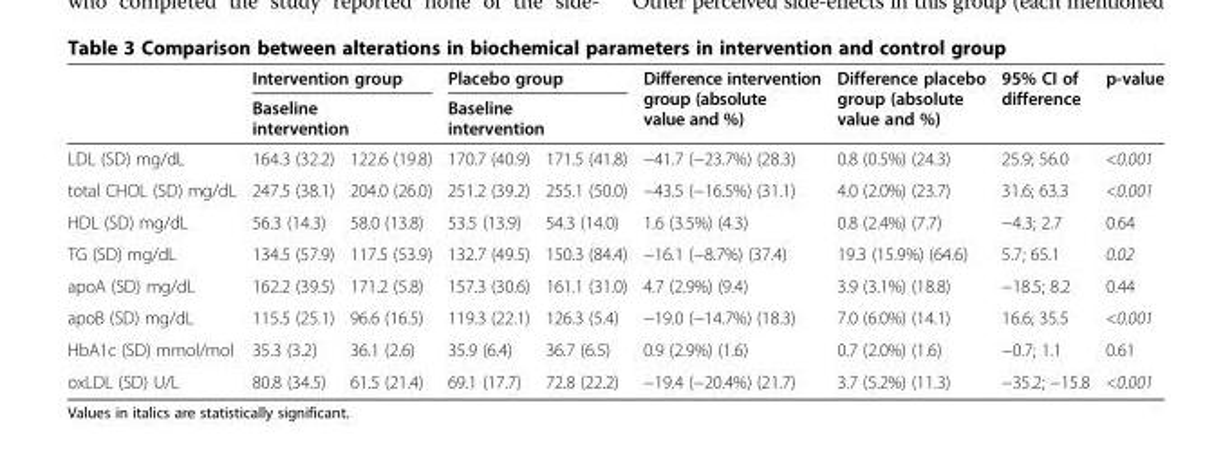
<table><thead><tr><td rowspan="3">LDL (SD) mg/dL</td><td rowspan="2" colspan="2">Intervention group Baseline intervention</td><td rowspan="2" colspan="2">Placebo group Baseline intervention</td><td rowspan="3">Difference intervention group (absolute value and %) −41.7 (−23.7%) (28.3)</td><td rowspan="3">Difference placebo group (absolute value and %) 0.8 (0.5%) (24.3)</td><td rowspan="3">95% CI of difference 25.9; 56.0</td><td rowspan="3">p-value &lt;0.001</td></tr><tr></tr><tr><td>164.3 (32.2)</td><td>122.6 (19.8)</td><td>170.7 (40.9)</td><td>171.5 (41.8)</td></tr></thead><tbody><tr><td>total CHOL (SD) mg/dL</td><td>247.5 (38.1)</td><td>204.0 (26.0)</td><td>251.2 (39.2)</td><td>255.1 (50.0)</td><td>−43.5 (−16.5%) (31.1)</td><td>4.0 (2.0%) (23.7)</td><td>31.6; 63.3</td><td>&lt;0.001</td></tr><tr><td>HDL (SD) mg/dL</td><td>56.3 (14.3)</td><td>58.0 (13.8)</td><td>53.5 (13.9)</td><td>54.3 (14.0)</td><td>1.6 (3.5%) (4.3)</td><td>0.8 (2.4%) (7.7)</td><td>−4.3; 2.7</td><td>0.64</td></tr><tr><td>TG (SD) mg/dL</td><td>134.5 (57.9)</td><td>117.5 (53.9)</td><td>132.7 (49.5)</td><td>150.3 (84.4)</td><td>−16.1 (−8.7%) (37.4)</td><td>19.3 (15.9%) (64.6)</td><td>5.7; 65.1</td><td>0.02</td></tr><tr><td>apoA (SD) mg/dL</td><td>162.2 (39.5)</td><td>171.2 (5.8)</td><td>157.3 (30.6)</td><td>161.1 (31.0)</td><td>4.7 (2.9%) (9.4)</td><td>3.9 (3.1%) (18.8)</td><td>−18.5; 8.2</td><td>0.44</td></tr><tr><td>apoB (SD) mg/dL</td><td>115.5 (25.1)</td><td>96.6 (16.5)</td><td>119.3 (22.1)</td><td>126.3 (5.4)</td><td>−19.0 (−14.7%) (18.3)</td><td>7.0 (6.0%) (14.1)</td><td>16.6; 35.5</td><td>&lt;0.001</td></tr><tr><td>HbA1c (SD) mmol/mol</td><td>35.3 (3.2)</td><td>36.1 (2.6)</td><td>35.9 (6.4)</td><td>36.7 (6.5)</td><td>0.9 (2.9%) (1.6)</td><td>0.7 (2.0%) (1.6)</td><td>−0.7; 1.1</td><td>0.61</td></tr><tr><td>oxLDL (SD) U/L</td><td>80.8 (34.5)</td><td>61.5 (21.4)</td><td>69.1 (17.7)</td><td>72.8 (22.2)</td><td>−19.4 (−20.4%) (21.7)</td><td>3.7 (5.2%) (11.3)</td><td>−35.2; −15.8</td><td>&lt;0.001</td></tr></tbody></table>